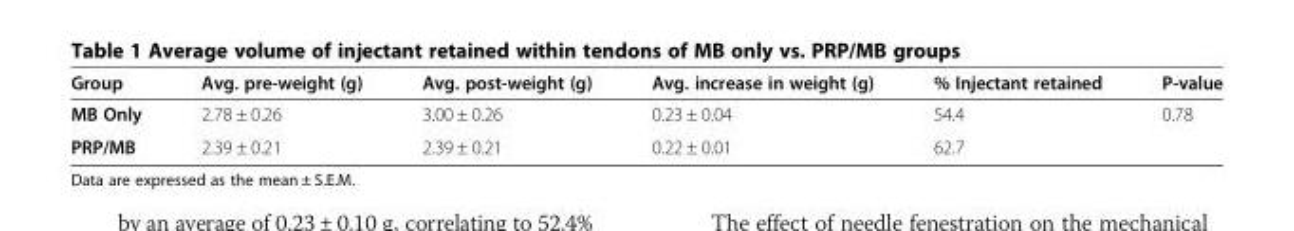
<table><thead><tr><td>Group</td><td>Avg. pre-weight (g)</td><td>Avg. post-weight (g)</td><td>Avg. increase in weight (g)</td><td>% Injectant retained</td><td>P-value</td></tr></thead><tbody><tr><td>MB Only</td><td>2.78 ± 0.26</td><td>3.00 ± 0.26</td><td>0.23 ± 0.04</td><td>54.4</td><td rowspan="2">0.78</td></tr><tr><td>PRP/MB</td><td>2.39 ± 0.21</td><td>2.39 ± 0.21</td><td>0.22 ± 0.01</td><td>62.7</td></tr></tbody></table>